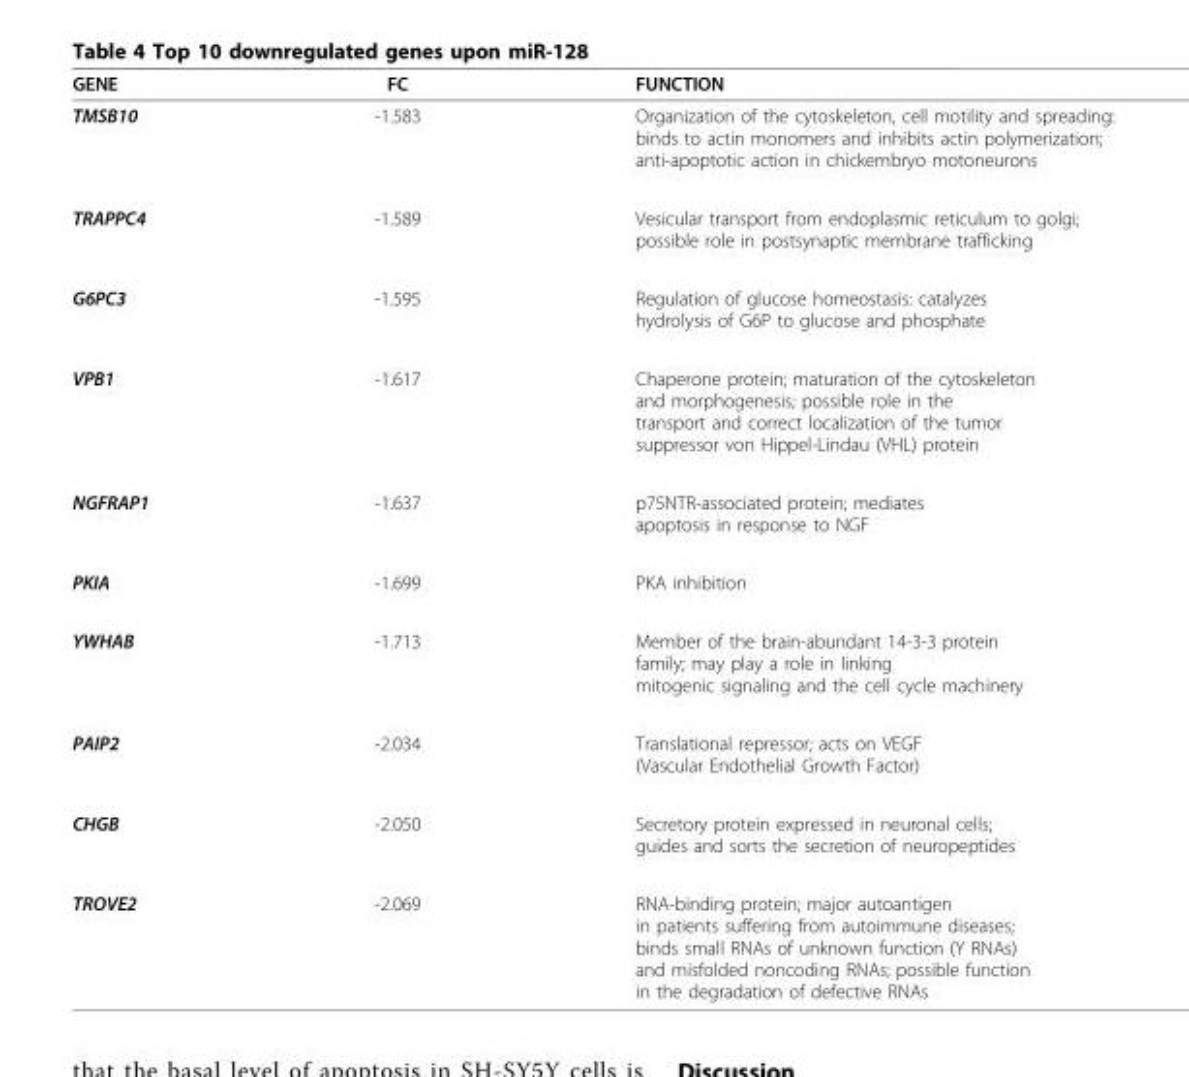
<table><thead><tr><td>GENE</td><td>FC</td><td>FUNCTION</td></tr></thead><tbody><tr><td>TMSB10</td><td>-1.583</td><td>Organization of the cytoskeleton, cell motility and spreading: binds to actin monomers and inhibits actin polymerization; anti-apoptotic action in chickembryo motoneurons</td></tr><tr><td>TRAPPC4</td><td>-1.589</td><td>Vesicular transport from endoplasmic reticulum to golgi; possible role in postsynaptic membrane trafficking</td></tr><tr><td>G6PC3</td><td>-1.595</td><td>Regulation of glucose homeostasis: catalyzes hydrolysis of G6P to glucose and phosphate</td></tr><tr><td>VPB1</td><td>-1.617</td><td>Chaperone protein; maturation of the cytoskeleton and morphogenesis; possible role in the transport and correct localization of the tumor suppressor von Hippel-Lindau (VHL) protein</td></tr><tr><td>NGFRAP1</td><td>-1.637</td><td>p75NTR-associated protein; mediates apoptosis in response to NGF</td></tr><tr><td>PKIA</td><td>-1.699</td><td>PKA inhibition</td></tr><tr><td>YWHAB</td><td>-1.713</td><td>Member of the brain-abundant 14-3-3 protein family; may play a role in linking mitogenic signaling and the cell cycle machinery</td></tr><tr><td>PAIP2</td><td>-2.034</td><td>Translational repressor; acts on VEGF (Vascular Endothelial Growth Factor)</td></tr><tr><td>CHGB</td><td>-2.050</td><td>Secretory protein expressed in neuronal cells; guides and sorts the secretion of neuropeptides</td></tr><tr><td>TROVE2</td><td>-2.069</td><td>RNA-binding protein; major autoantigen in patients suffering from autoimmune diseases; binds small RNAs of unknown function (Y RNAs) and misfolded noncoding RNAs; possible function in the degradation of defective RNAs</td></tr></tbody></table>